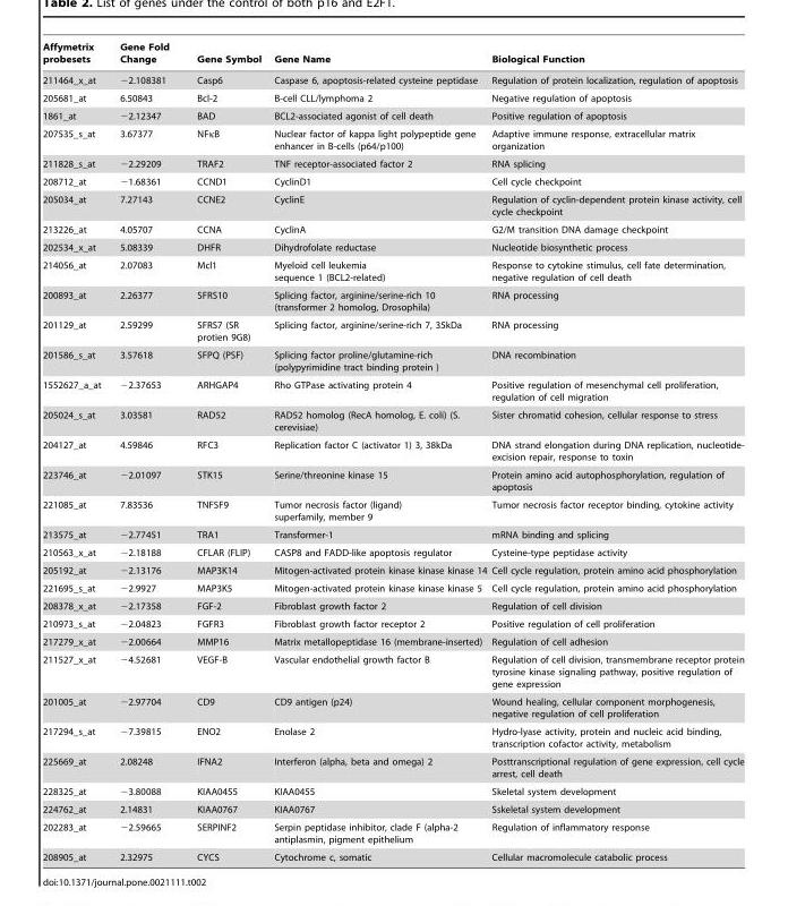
<table><thead><tr><td>Affymetrix probesets</td><td>Gene Fold Change</td><td>Gene Symbol</td><td>Gene Name</td><td>Biological Function</td></tr></thead><tbody><tr><td>211464_x_at</td><td>−2.108381</td><td>Casp6</td><td>Caspase 6, apoptosis-related cysteine peptidase</td><td>Regulation of protein localization, regulation of apoptosis</td></tr><tr><td>205681_at</td><td>6.50843</td><td>Bcl-2</td><td>B-cell CLL/lymphoma 2</td><td>Negative regulation of apoptosis</td></tr><tr><td>1861_at</td><td>−2.12347</td><td>BAD</td><td>BCL2-associated agonist of cell death</td><td>Positive regulation of apoptosis</td></tr><tr><td>207535_s_at</td><td>3.67377</td><td>NFκB</td><td>Nuclear factor of kappa light polypeptide gene enhancer in B-cells (p64/p100)</td><td>Adaptive immune response, extracellular matrix organization</td></tr><tr><td>211828_s_at</td><td>−2.29209</td><td>TRAF2</td><td>TNF receptor-associated factor 2</td><td>RNA splicing</td></tr><tr><td>208712_at</td><td>−1.68361</td><td>CCND1</td><td>CyclinD1</td><td>Cell cycle checkpoint</td></tr><tr><td>205034_at</td><td>7.27143</td><td>CCNE2</td><td>CyclinE</td><td>Regulation of cyclin-dependent protein kinase activity, cell cycle checkpoint</td></tr><tr><td>213226_at</td><td>4.05707</td><td>CCNA</td><td>CyclinA</td><td>G2/M transition DNA damage checkpoint</td></tr><tr><td>202534_x_at</td><td>5.08339</td><td>DHFR</td><td>Dihydrofolate reductase</td><td>Nucleotide biosynthetic process</td></tr><tr><td>214056_at</td><td>2.07083</td><td>Mcl1</td><td>Myeloid cell leukemia sequence 1 (BCL2-related)</td><td>Response to cytokine stimulus, cell fate determination, negative regulation of cell death</td></tr><tr><td>200893_at</td><td>2.26377</td><td>SFRS10</td><td>Splicing factor, arginine/serine-rich 10 (transformer 2 homolog, Drosophila)</td><td>RNA processing</td></tr><tr><td>201129_at</td><td>2.59299</td><td>SFRS7 (SR protien 9G8)</td><td>Splicing factor, arginine/serine-rich 7, 35kDa</td><td>RNA processing</td></tr><tr><td>201586_s_at</td><td>3.57618</td><td>SFPQ (PSF)</td><td>Splicing factor proline/glutamine-rich (polypyrimidine tract binding protein )</td><td>DNA recombination</td></tr><tr><td>1552627_a_at</td><td>−2.37653</td><td>ARHGAP4</td><td>Rho GTPase activating protein 4</td><td>Positive regulation of mesenchymal cell proliferation, regulation of cell migration</td></tr><tr><td>205024_s_at</td><td>3.03581</td><td>RAD52</td><td>RAD52 homolog (RecA homolog, E. coli) (S. cerevisiae)</td><td>Sister chromatid cohesion, cellular response to stress</td></tr><tr><td>204127_at</td><td>4.59846</td><td>RFC3</td><td>Replication factor C (activator 1) 3, 38kDa</td><td>DNA strand elongation during DNA replication, nucleotide- excision repair, response to toxin</td></tr><tr><td>223746_at</td><td>−2.01097</td><td>STK15</td><td>Serine/threonine kinase 15</td><td>Protein amino acid autophosphorylation, regulation of apoptosis</td></tr><tr><td>221085_at</td><td>7.83536</td><td>TNFSF9</td><td>Tumor necrosis factor (ligand) superfamily, member 9</td><td>Tumor necrosis factor receptor binding, cytokine activity</td></tr><tr><td>213575_at</td><td>−2.77451</td><td>TRA1</td><td>Transformer-1</td><td>mRNA binding and splicing</td></tr><tr><td>210563_x_at</td><td>−2.18188</td><td>CFLAR (FLIP)</td><td>CASP8 and FADD-like apoptosis regulator</td><td>Cysteine-type peptidase activity</td></tr><tr><td>205192_at</td><td>−2.13176</td><td>MAP3K14</td><td>Mitogen-activated protein kinase kinase kinase 14</td><td>Cell cycle regulation, protein amino acid phosphorylation</td></tr><tr><td>221695_s_at</td><td>−2.9927</td><td>MAP3K5</td><td>Mitogen-activated protein kinase kinase kinase 5</td><td>Cell cycle regulation, protein amino acid phosphorylation</td></tr><tr><td>208378_x_at</td><td>−2.17358</td><td>FGF-2</td><td>Fibroblast growth factor 2</td><td>Regulation of cell division</td></tr><tr><td>210973_s_at</td><td>−2.04823</td><td>FGFR3</td><td>Fibroblast growth factor receptor 2</td><td>Positive regulation of cell proliferation</td></tr><tr><td>217279_x_at</td><td>−2.00664</td><td>MMP16</td><td>Matrix metallopeptidase 16 (membrane-inserted)</td><td>Regulation of cell adhesion</td></tr><tr><td>211527_x_at</td><td>−4.52681</td><td>VEGF-B</td><td>Vascular endothelial growth factor B</td><td>Regulation of cell division, transmembrane receptor protein tyrosine kinase signaling pathway, positive regulation of gene expression</td></tr><tr><td>201005_at</td><td>−2.97704</td><td>CD9</td><td>CD9 antigen (p24)</td><td>Wound healing, cellular component morphogenesis, negative regulation of cell proliferation</td></tr><tr><td>217294_s_at</td><td>−7.39815</td><td>ENO2</td><td>Enolase 2</td><td>Hydro-lyase activity, protein and nucleic acid binding, transcription cofactor activity, metabolism</td></tr><tr><td>225669_at</td><td>2.08248</td><td>IFNA2</td><td>Interferon (alpha, beta and omega) 2</td><td>Posttranscriptional regulation of gene expression, cell cycle arrest, cell death</td></tr><tr><td>228325_at</td><td>−3.80088</td><td>KIAA0455</td><td>KIAA0455</td><td>Skeletal system development</td></tr><tr><td>224762_at</td><td>2.14831</td><td>KIAA0767</td><td>KIAA0767</td><td>Sskeletal system development</td></tr><tr><td>202283_at</td><td>−2.59665</td><td>SERPINF2</td><td>Serpin peptidase inhibitor, clade F (alpha-2 antiplasmin, pigment epithelium</td><td>Regulation of inflammatory response</td></tr><tr><td>208905_at</td><td>2.32975</td><td>CYCS</td><td>Cytochrome c, somatic</td><td>Cellular macromolecule catabolic process</td></tr></tbody></table>